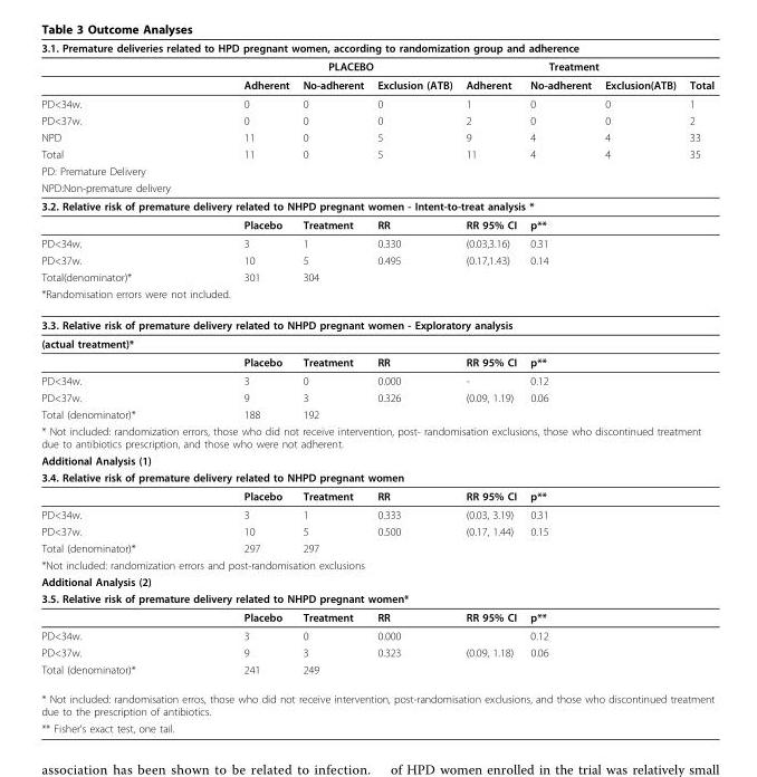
<table><thead><tr><td colspan="8">3.1. Premature deliveries related to HPD pregnant women, according to randomization group and adherence</td></tr><tr><td rowspan="2"></td><td colspan="3">PLACEBO</td><td colspan="3">Treatment</td><td rowspan="2">Total</td></tr><tr><td>Adherent</td><td>No-adherent</td><td>Exclusion (ATB)</td><td>Adherent</td><td>No-adherent</td><td>Exclusion(ATB)</td></tr></thead><tbody><tr><td>PD&lt;34w.</td><td>0</td><td>0</td><td>0</td><td>1</td><td>0</td><td>0</td><td>1</td></tr><tr><td>PD&lt;37w.</td><td>0</td><td>0</td><td>0</td><td>2</td><td>0</td><td>0</td><td>2</td></tr><tr><td>NPD</td><td>11</td><td>0</td><td>5</td><td>9</td><td>4</td><td>4</td><td>33</td></tr><tr><td>Total</td><td>11</td><td>0</td><td>5</td><td>11</td><td>4</td><td>4</td><td>35</td></tr><tr><td colspan="8">PD: Premature Delivery</td></tr><tr><td colspan="8">NPD:Non-premature delivery</td></tr><tr><td colspan="8">3.2. Relative risk of premature delivery related to NHPD pregnant women - Intent-to-treat analysis *</td></tr><tr><td></td><td>Placebo</td><td>Treatment</td><td>RR</td><td>RR 95% CI</td><td>p**</td><td></td><td></td></tr><tr><td>PD&lt;34w.</td><td>3</td><td>1</td><td>0.330</td><td>(0.03,3.16)</td><td>0.31</td><td></td><td></td></tr><tr><td>PD&lt;37w.</td><td>10</td><td>5</td><td>0.495</td><td>(0.17,1.43)</td><td>0.14</td><td></td><td></td></tr><tr><td>Total(denominator)*</td><td>301</td><td>304</td><td></td><td></td><td></td><td></td><td></td></tr><tr><td colspan="8">*Randomisation errors were not included.</td></tr><tr><td colspan="8">3.3. Relative risk of premature delivery related to NHPD pregnant women - Exploratory analysis</td></tr><tr><td colspan="8">(actual treatment)*</td></tr><tr><td></td><td>Placebo</td><td>Treatment</td><td>RR</td><td>RR 95% CI</td><td>p**</td><td></td><td></td></tr><tr><td>PD&lt;34w.</td><td>3</td><td>0</td><td>0.000</td><td>-</td><td>0.12</td><td></td><td></td></tr><tr><td>PD&lt;37w.</td><td>9</td><td>3</td><td>0.326</td><td>(0.09, 1.19)</td><td>0.06</td><td></td><td></td></tr><tr><td>Total (denominator)*</td><td>188</td><td>192</td><td></td><td></td><td></td><td></td><td></td></tr><tr><td colspan="8">* Not included: randomization errors, those who did not receive intervention, post- randomisation exclusions, those who discontinued treatment due to antibiotics prescription, and those who were not adherent.</td></tr><tr><td colspan="8">Additional Analysis (1)</td></tr><tr><td colspan="8">3.4. Relative risk of premature delivery related to NHPD pregnant women</td></tr><tr><td></td><td>Placebo</td><td>Treatment</td><td>RR</td><td>RR 95% CI</td><td>p**</td><td></td><td></td></tr><tr><td>PD&lt;34w.</td><td>3</td><td>1</td><td>0.333</td><td>(0.03, 3.19)</td><td>0.31</td><td></td><td></td></tr><tr><td>PD&lt;37w.</td><td>10</td><td>5</td><td>0.500</td><td>(0.17, 1.44)</td><td>0.15</td><td></td><td></td></tr><tr><td>Total (denominator)*</td><td>297</td><td>297</td><td></td><td></td><td></td><td></td><td></td></tr><tr><td colspan="8">*Not included: randomization errors and post-randomisation exclusions</td></tr><tr><td colspan="8">Additional Analysis (2)</td></tr><tr><td colspan="8">3.5. Relative risk of premature delivery related to NHPD pregnant women*</td></tr><tr><td></td><td>Placebo</td><td>Treatment</td><td>RR</td><td>RR 95% CI</td><td>p**</td><td></td><td></td></tr><tr><td>PD&lt;34w.</td><td>3</td><td>0</td><td>0.000</td><td></td><td>0.12</td><td></td><td></td></tr><tr><td>PD&lt;37w.</td><td>9</td><td>3</td><td>0.323</td><td>(0.09, 1.18)</td><td>0.06</td><td></td><td></td></tr><tr><td>Total (denominator)*</td><td>241</td><td>249</td><td></td><td></td><td></td><td></td><td></td></tr><tr><td colspan="8">* Not included: randomisation erros, those who did not receive intervention, post-randomisation exclusions, and those who discontinued treatment due to the prescription of antibiotics.</td></tr><tr><td colspan="8">** Fisher’s exact test, one tail.</td></tr></tbody></table>